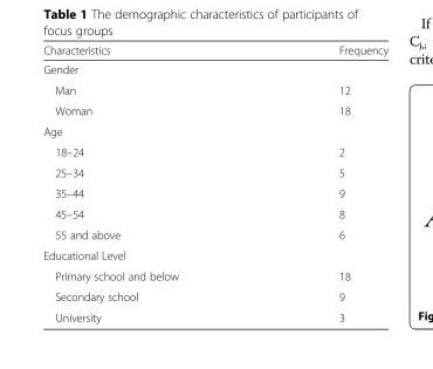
<table><thead><tr><td>Characteristics</td><td>Frequency</td></tr></thead><tbody><tr><td colspan="2">Gender</td></tr><tr><td>Man</td><td>12</td></tr><tr><td>Woman</td><td>18</td></tr><tr><td colspan="2">Age</td></tr><tr><td>18–24</td><td>2</td></tr><tr><td>25–34</td><td>5</td></tr><tr><td>35–44</td><td>9</td></tr><tr><td>45–54</td><td>8</td></tr><tr><td>55 and above</td><td>6</td></tr><tr><td colspan="2">Educational Level</td></tr><tr><td>Primary school and below</td><td>18</td></tr><tr><td>Secondary school</td><td>9</td></tr><tr><td>University</td><td>3</td></tr></tbody></table>